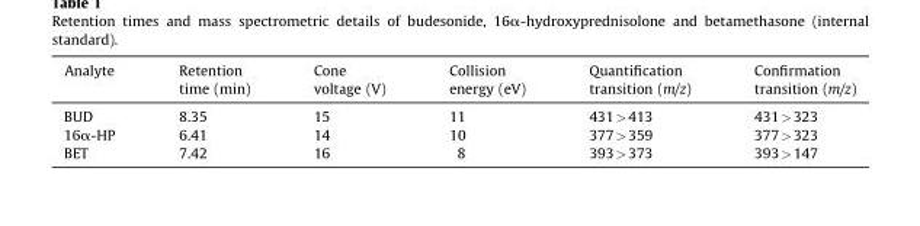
<table><thead><tr><td>Analyte</td><td>Retention time (min)</td><td>Cone voltage (V)</td><td>Collision energy (eV)</td><td>Quantification transition (m/z)</td><td>Confirmation transition (m/z)</td></tr></thead><tbody><tr><td>BUD</td><td>8.35</td><td>15</td><td>11</td><td>431&gt;413</td><td>431&gt;323</td></tr><tr><td>16α-HP</td><td>6.41</td><td>14</td><td>10</td><td>377&gt;359</td><td>377&gt;323</td></tr><tr><td>BET</td><td>7.42</td><td>16</td><td>8</td><td>393&gt;373</td><td>393&gt;147</td></tr></tbody></table>